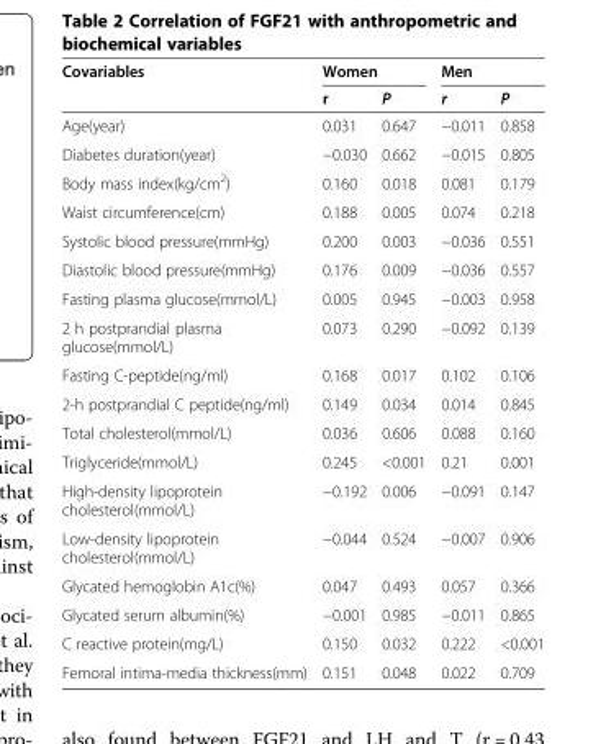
<table><thead><tr><td rowspan="2">Covariables</td><td colspan="2">Women</td><td colspan="2">Men</td></tr><tr><td>r</td><td>P</td><td>r</td><td>P</td></tr></thead><tbody><tr><td>Age(year)</td><td>0.031</td><td>0.647</td><td>−0.011</td><td>0.858</td></tr><tr><td>Diabetes duration(year)</td><td>−0.030</td><td>0.662</td><td>−0.015</td><td>0.805</td></tr><tr><td>Body mass index(kg/cm<sup>2</sup>)</td><td>0.160</td><td>0.018</td><td>0.081</td><td>0.179</td></tr><tr><td>Waist circumference(cm)</td><td>0.188</td><td>0.005</td><td>0.074</td><td>0.218</td></tr><tr><td>Systolic blood pressure(mmHg)</td><td>0.200</td><td>0.003</td><td>−0.036</td><td>0.551</td></tr><tr><td>Diastolic blood pressure(mmHg)</td><td>0.176</td><td>0.009</td><td>−0.036</td><td>0.557</td></tr><tr><td>Fasting plasma glucose(mmol/L)</td><td>0.005</td><td>0.945</td><td>−0.003</td><td>0.958</td></tr><tr><td>2 h postprandial plasma glucose(mmol/L)</td><td>0.073</td><td>0.290</td><td>−0.092</td><td>0.139</td></tr><tr><td>Fasting C-peptide(ng/ml)</td><td>0.168</td><td>0.017</td><td>0.102</td><td>0.106</td></tr><tr><td>2-h postprandial C peptide(ng/ml)</td><td>0.149</td><td>0.034</td><td>0.014</td><td>0.845</td></tr><tr><td>Total cholesterol(mmol/L)</td><td>0.036</td><td>0.606</td><td>0.088</td><td>0.160</td></tr><tr><td>Triglyceride(mmol/L)</td><td>0.245</td><td>&lt;0.001</td><td>0.21</td><td>0.001</td></tr><tr><td>High-density lipoprotein cholesterol(mmol/L)</td><td>−0.192</td><td>0.006</td><td>−0.091</td><td>0.147</td></tr><tr><td>Low-density lipoprotein cholesterol(mmol/L)</td><td>−0.044</td><td>0.524</td><td>−0.007</td><td>0.906</td></tr><tr><td>Glycated hemoglobin A1c(%)</td><td>0.047</td><td>0.493</td><td>0.057</td><td>0.366</td></tr><tr><td>Glycated serum albumin(%)</td><td>−0.001</td><td>0.985</td><td>−0.011</td><td>0.865</td></tr><tr><td>C reactive protein(mg/L)</td><td>0.150</td><td>0.032</td><td>0.222</td><td>&lt;0.001</td></tr><tr><td>Femoral intima-media thickness(mm)</td><td>0.151</td><td>0.048</td><td>0.022</td><td>0.709</td></tr></tbody></table>